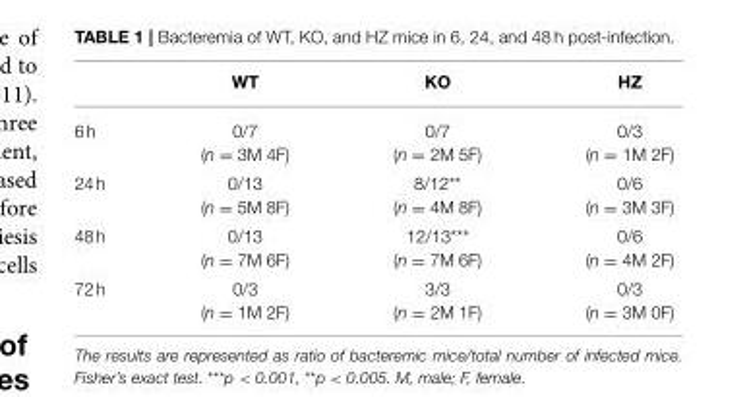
<table><thead><tr><td></td><td>WT</td><td>KO</td><td>HZ</td></tr></thead><tbody><tr><td>6 h</td><td>0/7 (n = 3M 4F)</td><td>0/7 (n = 2M 5F)</td><td>0/3 (n = 1M 2F)</td></tr><tr><td>24 h</td><td>0/13 (n = 5M 8F)</td><td>8/12** (n = 4M 8F)</td><td>0/6 (n = 3M 3F)</td></tr><tr><td>48 h</td><td>0/13 (n = 7M 6F)</td><td>12/13*** (n = 7M 6F)</td><td>0/6 (n = 4M 2F)</td></tr><tr><td>72 h</td><td>0/3 (n = 1M 2F)</td><td>3/3 (n = 2M 1F)</td><td>0/3 (n = 3M 0F)</td></tr></tbody></table>